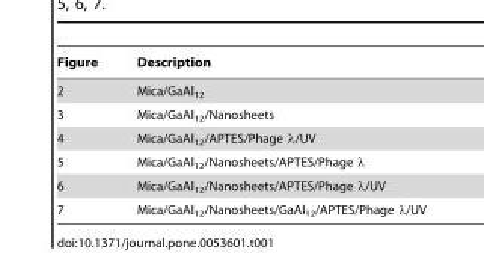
<table><thead><tr><td>Figure</td><td>Description</td></tr></thead><tbody><tr><td>2</td><td>Mica/GaAl<sub>12</sub></td></tr><tr><td>3</td><td>Mica/GaAl<sub>12</sub>/Nanosheets</td></tr><tr><td>4</td><td>Mica/GaAl<sub>12</sub>/APTES/Phage λ/UV</td></tr><tr><td>5</td><td>Mica/GaAl<sub>12</sub>/Nanosheets/APTES/Phage λ</td></tr><tr><td>6</td><td>Mica/GaAl<sub>12</sub>/Nanosheets/APTES/Phage λ/UV</td></tr><tr><td>7</td><td>Mica/GaAl<sub>12</sub>/Nanosheets/GaAl<sub>12</sub>/APTES/Phage λ/UV</td></tr></tbody></table>